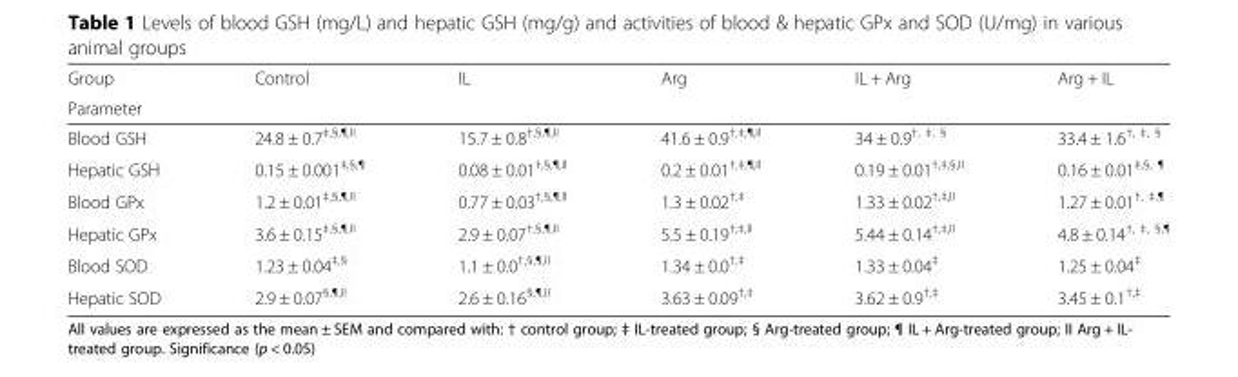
<table><thead><tr><td rowspan="2">Group Parameter</td><td rowspan="2">Control</td><td rowspan="2">IL</td><td rowspan="2">Arg</td><td rowspan="2">IL + Arg</td><td rowspan="2">Arg + IL</td></tr><tr></tr></thead><tbody><tr><td>Blood GSH</td><td>24.8 ± 0.7<sup>‡,§,¶,II</sup></td><td>15.7 ± 0.8<sup>†,§,¶,II</sup></td><td>41.6 ± 0.9<sup>†,‡,¶,II</sup></td><td>34 ± 0.9<sup>†, ‡, §</sup></td><td>33.4 ± 1.6<sup>†, ‡, §</sup></td></tr><tr><td>Hepatic GSH</td><td>0.15 ± 0.001<sup>‡,§,¶</sup></td><td>0.08 ± 0.01<sup>†,§,¶,II</sup></td><td>0.2 ± 0.01<sup>†,‡,¶,II</sup></td><td>0.19 ± 0.01<sup>†,‡,§,II</sup></td><td>0.16 ± 0.01<sup>‡,§, ¶</sup></td></tr><tr><td>Blood GPx</td><td>1.2 ± 0.01<sup>‡,§,¶,II</sup></td><td>0.77 ± 0.03<sup>†,§,¶,II</sup></td><td>1.3 ± 0.02<sup>†,‡</sup></td><td>1.33 ± 0.02<sup>†,‡,II</sup></td><td>1.27 ± 0.01<sup>†, ‡,¶</sup></td></tr><tr><td>Hepatic GPx</td><td>3.6 ± 0.15<sup>‡,§,¶,II</sup></td><td>2.9 ± 0.07<sup>†,§,¶,II</sup></td><td>5.5 ± 0.19<sup>†,‡,II</sup></td><td>5.44 ± 0.14<sup>†,‡,II</sup></td><td>4.8 ± 0.14<sup>†, ‡, §,¶</sup></td></tr><tr><td>Blood SOD</td><td>1.23 ± 0.04<sup>‡,§</sup></td><td>1.1 ± 0.0<sup>†,§,¶,II</sup></td><td>1.34 ± 0.0<sup>†,‡</sup></td><td>1.33 ± 0.04<sup>‡</sup></td><td>1.25 ± 0.04<sup>‡</sup></td></tr><tr><td>Hepatic SOD</td><td>2.9 ± 0.07<sup>§,¶,II</sup></td><td>2.6 ± 0.16<sup>§,¶,II</sup></td><td>3.63 ± 0.09<sup>†,‡</sup></td><td>3.62 ± 0.9<sup>†,‡</sup></td><td>3.45 ± 0.1<sup>†,‡</sup></td></tr></tbody></table>